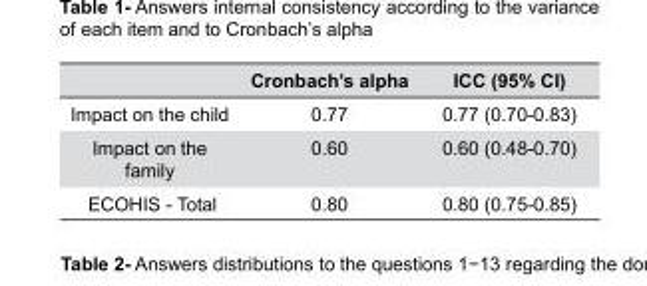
<table><thead><tr><td></td><td>Cronbach’s alpha</td><td>ICC (95% CI)</td></tr></thead><tbody><tr><td>Impact on the child</td><td>0.77</td><td>0.77 (0.70-0.83)</td></tr><tr><td>Impact on the family</td><td>0.60</td><td>0.60 (0.48-0.70)</td></tr><tr><td>ECOHIS - Total</td><td>0.80</td><td>0.80 (0.75-0.85)</td></tr></tbody></table>